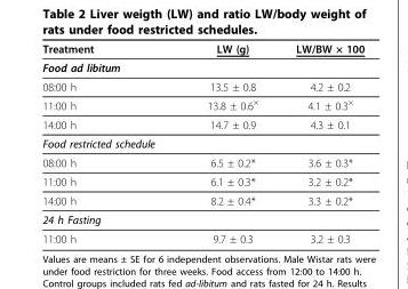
<table><thead><tr><td>Treatment</td><td>LW (g)</td><td>LW/BW × 100</td></tr></thead><tbody><tr><td colspan="3">Food ad libitum</td></tr><tr><td>08:00 h</td><td>13.5 ± 0.8</td><td>4.2 ± 0.2</td></tr><tr><td>11:00 h</td><td>13.8 ± 0.6×</td><td>4.1 ± 0.3×</td></tr><tr><td>14:00 h</td><td>14.7 ± 0.9</td><td>4.3 ± 0.1</td></tr><tr><td colspan="3">Food restricted schedule</td></tr><tr><td>08:00 h</td><td>6.5 ± 0.2*</td><td>3.6 ± 0.3*</td></tr><tr><td>11:00 h</td><td>6.1 ± 0.3*</td><td>3.2 ± 0.2*</td></tr><tr><td>14:00 h</td><td>8.2 ± 0.4*</td><td>3.3 ± 0.2*</td></tr><tr><td colspan="3">24 h Fasting</td></tr><tr><td>11:00 h</td><td>9.7 ± 0.3</td><td>3.2 ± 0.3</td></tr></tbody></table>